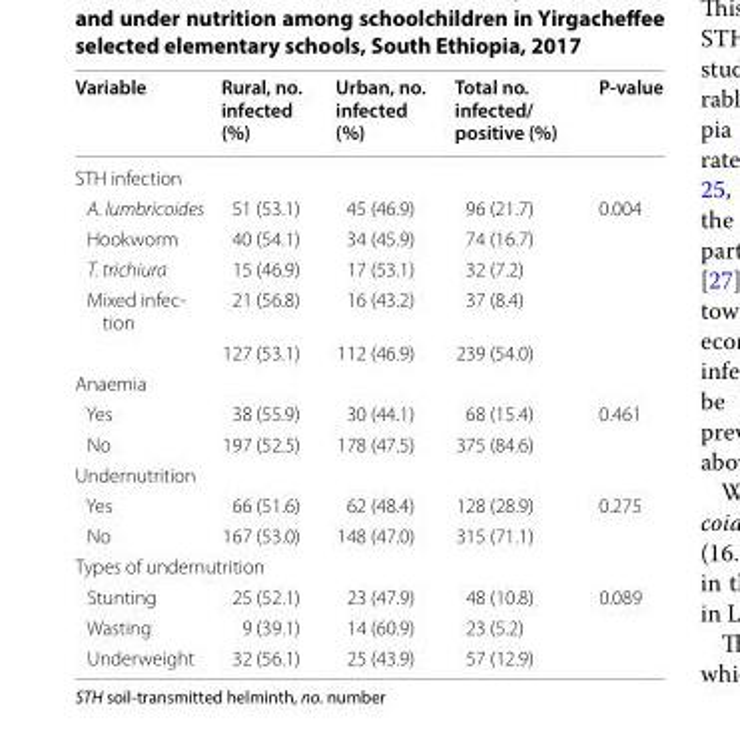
<table><thead><tr><td>Variable</td><td>Rural, no. infected (%)</td><td>Urban, no. infected (%)</td><td>Total no. infected/ positive (%)</td><td>P-value</td></tr></thead><tbody><tr><td colspan="5">STH infection</td></tr><tr><td>A. lumbricoides</td><td>51 (53.1)</td><td>45 (46.9)</td><td>96 (21.7)</td><td rowspan="5">0.004</td></tr><tr><td>Hookworm</td><td>40 (54.1)</td><td>34 (45.9)</td><td>74 (16.7)</td></tr><tr><td>T. trichiura</td><td>15 (46.9)</td><td>17 (53.1)</td><td>32 (7.2)</td></tr><tr><td rowspan="2">Mixed infec- tion</td><td>21 (56.8)</td><td>16 (43.2)</td><td>37 (8.4)</td></tr><tr><td>127 (53.1)</td><td>112 (46.9)</td><td>239 (54.0)</td></tr><tr><td colspan="5">Anaemia</td></tr><tr><td>Yes</td><td>38 (55.9)</td><td>30 (44.1)</td><td>68 (15.4)</td><td rowspan="2">0.461</td></tr><tr><td>No</td><td>197 (52.5)</td><td>178 (47.5)</td><td>375 (84.6)</td></tr><tr><td colspan="5">Undernutrition</td></tr><tr><td>Yes</td><td>66 (51.6)</td><td>62 (48.4)</td><td>128 (28.9)</td><td rowspan="2">0.275</td></tr><tr><td>No</td><td>167 (53.0)</td><td>148 (47.0)</td><td>315 (71.1)</td></tr><tr><td colspan="5">Types of undernutrition</td></tr><tr><td>Stunting</td><td>25 (52.1)</td><td>23 (47.9)</td><td>48 (10.8)</td><td rowspan="3">0.089</td></tr><tr><td>Wasting</td><td>9 (39.1)</td><td>14 (60.9)</td><td>23 (5.2)</td></tr><tr><td>Underweight</td><td>32 (56.1)</td><td>25 (43.9)</td><td>57 (12.9)</td></tr></tbody></table>